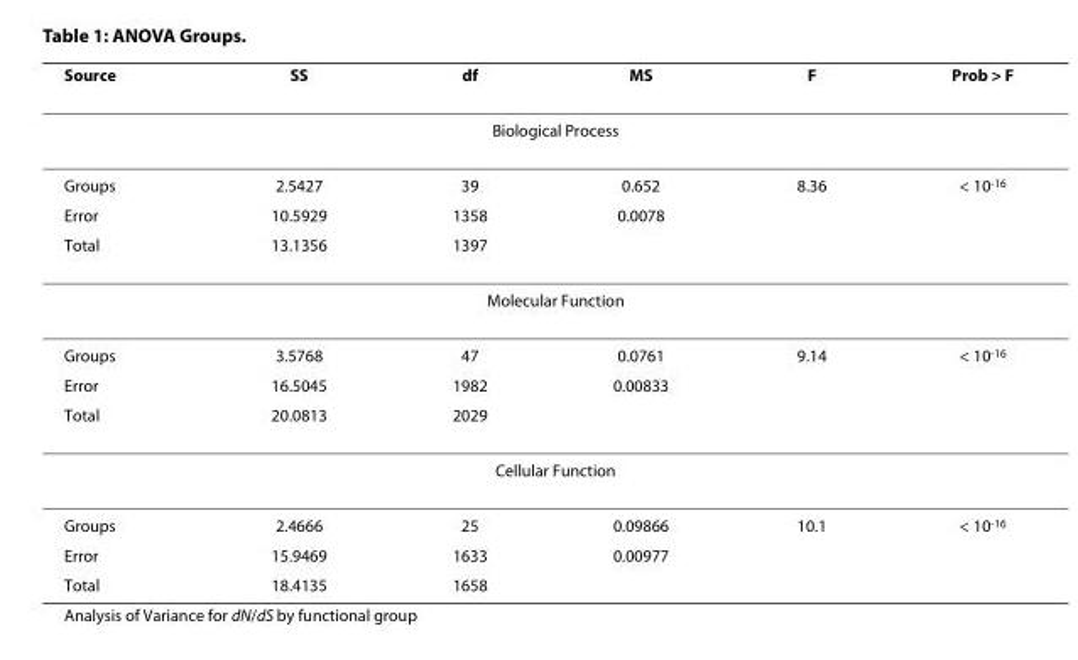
<table><thead><tr><td>Source</td><td>SS</td><td>df</td><td>MS</td><td>F</td><td>Prob &gt; F</td></tr></thead><tbody><tr><td colspan="6">Biological Process</td></tr><tr><td>Groups</td><td>2.5427</td><td>39</td><td>0.652</td><td>8.36</td><td>&lt; 10<sup>-16</sup></td></tr><tr><td>Error</td><td>10.5929</td><td>1358</td><td>0.0078</td><td></td><td></td></tr><tr><td>Total</td><td>13.1356</td><td>1397</td><td></td><td></td><td></td></tr><tr><td colspan="6">Molecular Function</td></tr><tr><td>Groups</td><td>3.5768</td><td>47</td><td>0.0761</td><td>9.14</td><td>&lt; 10<sup>-16</sup></td></tr><tr><td>Error</td><td>16.5045</td><td>1982</td><td>0.00833</td><td></td><td></td></tr><tr><td>Total</td><td>20.0813</td><td>2029</td><td></td><td></td><td></td></tr><tr><td colspan="6">Cellular Function</td></tr><tr><td>Groups</td><td>2.4666</td><td>25</td><td>0.09866</td><td>10.1</td><td>&lt; 10<sup>-16</sup></td></tr><tr><td>Error</td><td>15.9469</td><td>1633</td><td>0.00977</td><td></td><td></td></tr><tr><td>Total</td><td>18.4135</td><td>1658</td><td></td><td></td><td></td></tr></tbody></table>